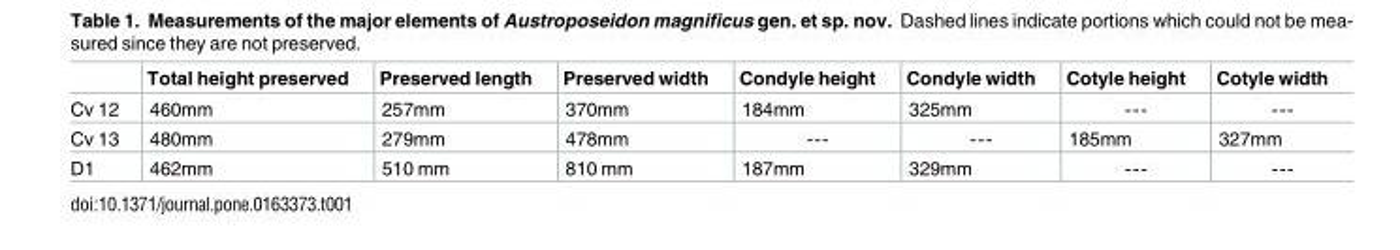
<table><thead><tr><td></td><td>Total height preserved</td><td>Preserved length</td><td>Preserved width</td><td>Condyle height</td><td>Condyle width</td><td>Cotyle height</td><td>Cotyle width</td></tr></thead><tbody><tr><td>Cv 12</td><td>460mm</td><td>257mm</td><td>370mm</td><td>184mm</td><td>325mm</td><td>---</td><td>---</td></tr><tr><td>Cv 13</td><td>480mm</td><td>279mm</td><td>478mm</td><td>---</td><td>---</td><td>185mm</td><td>327mm</td></tr><tr><td>D1</td><td>462mm</td><td>510 mm</td><td>810 mm</td><td>187mm</td><td>329mm</td><td>---</td><td>---</td></tr></tbody></table>